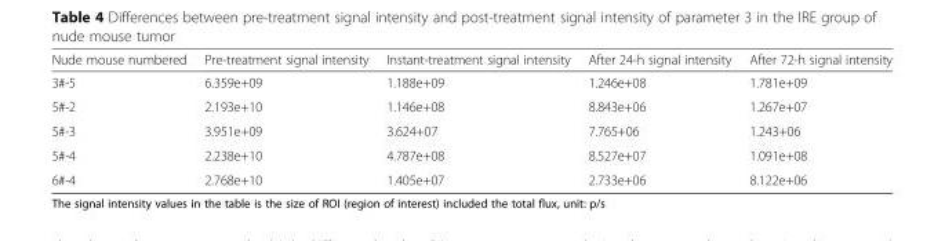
<table><thead><tr><td>Nude mouse numbered</td><td>Pre-treatment signal intensity</td><td>Instant-treatment signal intensity</td><td>After 24-h signal intensity</td><td>After 72-h signal intensity</td></tr></thead><tbody><tr><td>3#-5</td><td>6.359e+09</td><td>1.188e+09</td><td>1.246e+08</td><td>1.781e+09</td></tr><tr><td>5#-2</td><td>2.193e+10</td><td>1.146e+08</td><td>8.843e+06</td><td>1.267e+07</td></tr><tr><td>5#-3</td><td>3.951e+09</td><td>3.624+07</td><td>7.765+06</td><td>1.243+06</td></tr><tr><td>5#-4</td><td>2.238e+10</td><td>4.787e+08</td><td>8.527e+07</td><td>1.091e+08</td></tr><tr><td>6#-4</td><td>2.768e+10</td><td>1.405e+07</td><td>2.733e+06</td><td>8.122e+06</td></tr></tbody></table>